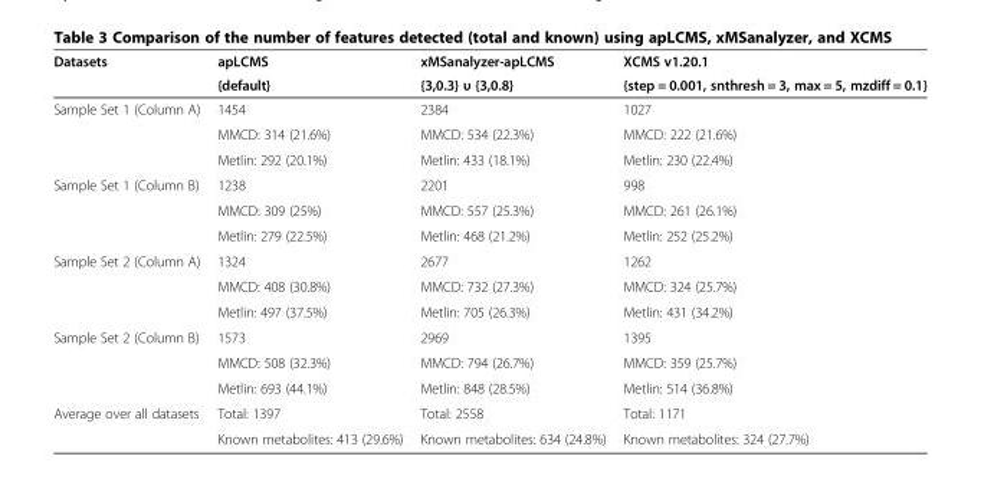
<table><thead><tr><td rowspan="2">Datasets</td><td rowspan="2">apLCMS {default}</td><td rowspan="2">xMSanalyzer-apLCMS {3,0.3} υ {3,0.8}</td><td rowspan="2">XCMS v1.20.1 {step = 0.001, snthresh = 3, max = 5, mzdiff = 0.1}</td></tr><tr></tr></thead><tbody><tr><td rowspan="3">Sample Set 1 (Column A)</td><td>1454</td><td>2384</td><td>1027</td></tr><tr><td>MMCD: 314 (21.6%)</td><td>MMCD: 534 (22.3%)</td><td>MMCD: 222 (21.6%)</td></tr><tr><td>Metlin: 292 (20.1%)</td><td>Metlin: 433 (18.1%)</td><td>Metlin: 230 (22.4%)</td></tr><tr><td rowspan="3">Sample Set 1 (Column B)</td><td>1238</td><td>2201</td><td>998</td></tr><tr><td>MMCD: 309 (25%)</td><td>MMCD: 557 (25.3%)</td><td>MMCD: 261 (26.1%)</td></tr><tr><td>Metlin: 279 (22.5%)</td><td>Metlin: 468 (21.2%)</td><td>Metlin: 252 (25.2%)</td></tr><tr><td rowspan="3">Sample Set 2 (Column A)</td><td>1324</td><td>2677</td><td>1262</td></tr><tr><td>MMCD: 408 (30.8%)</td><td>MMCD: 732 (27.3%)</td><td>MMCD: 324 (25.7%)</td></tr><tr><td>Metlin: 497 (37.5%)</td><td>Metlin: 705 (26.3%)</td><td>Metlin: 431 (34.2%)</td></tr><tr><td rowspan="3">Sample Set 2 (Column B)</td><td>1573</td><td>2969</td><td>1395</td></tr><tr><td>MMCD: 508 (32.3%)</td><td>MMCD: 794 (26.7%)</td><td>MMCD: 359 (25.7%)</td></tr><tr><td>Metlin: 693 (44.1%)</td><td>Metlin: 848 (28.5%)</td><td>Metlin: 514 (36.8%)</td></tr><tr><td rowspan="2">Average over all datasets</td><td>Total: 1397</td><td>Total: 2558</td><td>Total: 1171</td></tr><tr><td>Known metabolites: 413 (29.6%)</td><td>Known metabolites: 634 (24.8%)</td><td>Known metabolites: 324 (27.7%)</td></tr></tbody></table>